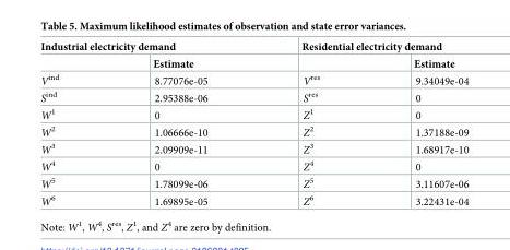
<table><thead><tr><td colspan="2">Industrial electricity demand</td><td colspan="2">Residential electricity demand</td></tr><tr><td></td><td>Estimate</td><td></td><td>Estimate</td></tr></thead><tbody><tr><td>V<sup>ind</sup></td><td>8.77076e-05</td><td>V<sup>res</sup></td><td>9.34049e-04</td></tr><tr><td>S<sup>ind</sup></td><td>2.95388e-06</td><td>S<sup>res</sup></td><td>0</td></tr><tr><td>W<sup>1</sup></td><td>0</td><td>Z<sup>1</sup></td><td>0</td></tr><tr><td>W<sup>2</sup></td><td>1.06666e-10</td><td>Z<sup>2</sup></td><td>1.37188e-09</td></tr><tr><td>W<sup>3</sup></td><td>2.09909e-11</td><td>Z<sup>3</sup></td><td>1.68917e-10</td></tr><tr><td>W<sup>4</sup></td><td>0</td><td>Z<sup>4</sup></td><td>0</td></tr><tr><td>W<sup>5</sup></td><td>1.78099e-06</td><td>Z<sup>5</sup></td><td>3.11607e-06</td></tr><tr><td>W<sup>6</sup></td><td>1.69895e-05</td><td>Z<sup>6</sup></td><td>3.22431e-04</td></tr></tbody></table>